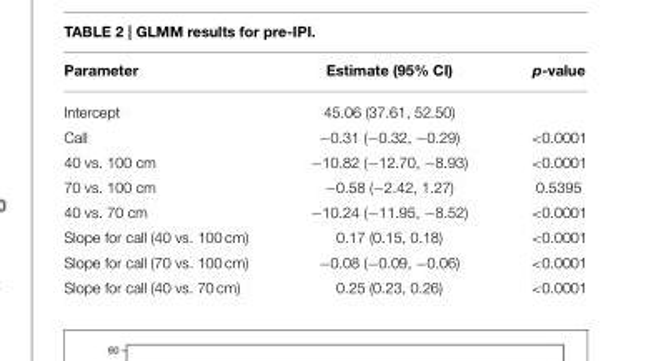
<table><thead><tr><td>Parameter</td><td>Estimate (95% CI)</td><td>p-value</td></tr></thead><tbody><tr><td>Intercept</td><td>45.06 (37.61, 52.50)</td><td></td></tr><tr><td>Call</td><td>−0.31 (−0.32, −0.29)</td><td>&lt;0.0001</td></tr><tr><td>40 vs. 100 cm</td><td>−10.82 (−12.70, −8.93)</td><td>&lt;0.0001</td></tr><tr><td>70 vs. 100 cm</td><td>−0.58 (−2.42, 1.27)</td><td>0.5395</td></tr><tr><td>40 vs. 70 cm</td><td>−10.24 (−11.95, −8.52)</td><td>&lt;0.0001</td></tr><tr><td>Slope for call (40 vs. 100 cm)</td><td>0.17 (0.15, 0.18)</td><td>&lt;0.0001</td></tr><tr><td>Slope for call (70 vs. 100 cm)</td><td>−0.08 (−0.09, −0.06)</td><td>&lt;0.0001</td></tr><tr><td>Slope for call (40 vs. 70 cm)</td><td>0.25 (0.23, 0.26)</td><td>&lt;0.0001</td></tr></tbody></table>